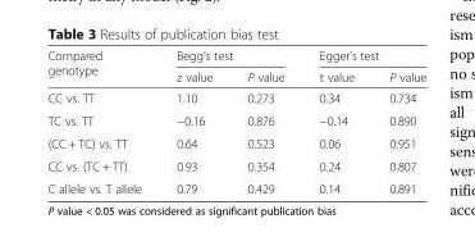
<table><thead><tr><td rowspan="2">Compared genotype</td><td colspan="2">Begg’s test</td><td colspan="2">Egger’s test</td></tr><tr><td>z value</td><td>P value</td><td>t value</td><td>P value</td></tr></thead><tbody><tr><td>CC vs. TT</td><td>1.10</td><td>0.273</td><td>0.34</td><td>0.734</td></tr><tr><td>TC vs. TT</td><td>−0.16</td><td>0.876</td><td>−0.14</td><td>0.890</td></tr><tr><td>(CC + TC) vs. TT</td><td>0.64</td><td>0.523</td><td>0.06</td><td>0.951</td></tr><tr><td>CC vs. (TC + TT)</td><td>0.93</td><td>0.354</td><td>0.24</td><td>0.807</td></tr><tr><td>C allele vs. T allele</td><td>0.79</td><td>0.429</td><td>0.14</td><td>0.891</td></tr></tbody></table>